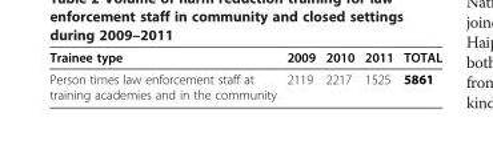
<table><thead><tr><td>Trainee type</td><td>2009</td><td>2010</td><td>2011</td><td>TOTAL</td></tr></thead><tbody><tr><td>Person times law enforcement staff at training academies and in the community</td><td>2119</td><td>2217</td><td>1525</td><td>5861</td></tr></tbody></table>